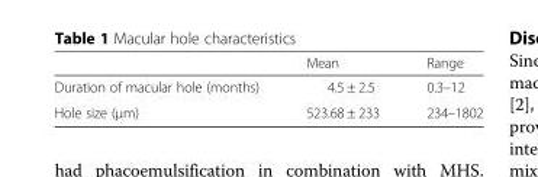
<table><thead><tr><td></td><td>Mean</td><td>Range</td></tr></thead><tbody><tr><td>Duration of macular hole (months)</td><td>4.5 ± 2.5</td><td>0.3–12</td></tr><tr><td>Hole size (μm)</td><td>523.68 ± 233</td><td>234–1802</td></tr></tbody></table>